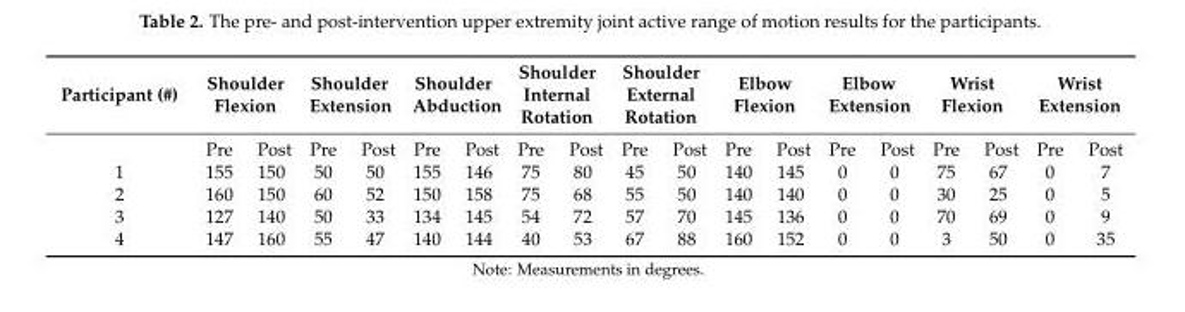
<table><thead><tr><td rowspan="2">Participant (#)</td><td colspan="2">Shoulder Flexion</td><td colspan="2">Shoulder Extension</td><td colspan="2">Shoulder Abduction</td><td colspan="2">Shoulder Internal Rotation</td><td colspan="2">Shoulder External Rotation</td><td colspan="2">Elbow Flexion</td><td colspan="2">Elbow Extension</td><td colspan="2">Wrist Flexion</td><td colspan="2">Wrist Extension</td></tr><tr><td>Pre</td><td>Post</td><td>Pre</td><td>Post</td><td>Pre</td><td>Post</td><td>Pre</td><td>Post</td><td>Pre</td><td>Post</td><td>Pre</td><td>Post</td><td>Pre</td><td>Post</td><td>Pre</td><td>Post</td><td>Pre</td><td>Post</td></tr></thead><tbody><tr><td>1</td><td>155</td><td>150</td><td>50</td><td>50</td><td>155</td><td>146</td><td>75</td><td>80</td><td>45</td><td>50</td><td>140</td><td>145</td><td>0</td><td>0</td><td>75</td><td>67</td><td>0</td><td>7</td></tr><tr><td>2</td><td>160</td><td>150</td><td>60</td><td>52</td><td>150</td><td>158</td><td>75</td><td>68</td><td>55</td><td>50</td><td>140</td><td>140</td><td>0</td><td>0</td><td>30</td><td>25</td><td>0</td><td>5</td></tr><tr><td>3</td><td>127</td><td>140</td><td>50</td><td>33</td><td>134</td><td>145</td><td>54</td><td>72</td><td>57</td><td>70</td><td>145</td><td>136</td><td>0</td><td>0</td><td>70</td><td>69</td><td>0</td><td>9</td></tr><tr><td>4</td><td>147</td><td>160</td><td>55</td><td>47</td><td>140</td><td>144</td><td>40</td><td>53</td><td>67</td><td>88</td><td>160</td><td>152</td><td>0</td><td>0</td><td>3</td><td>50</td><td>0</td><td>35</td></tr></tbody></table>